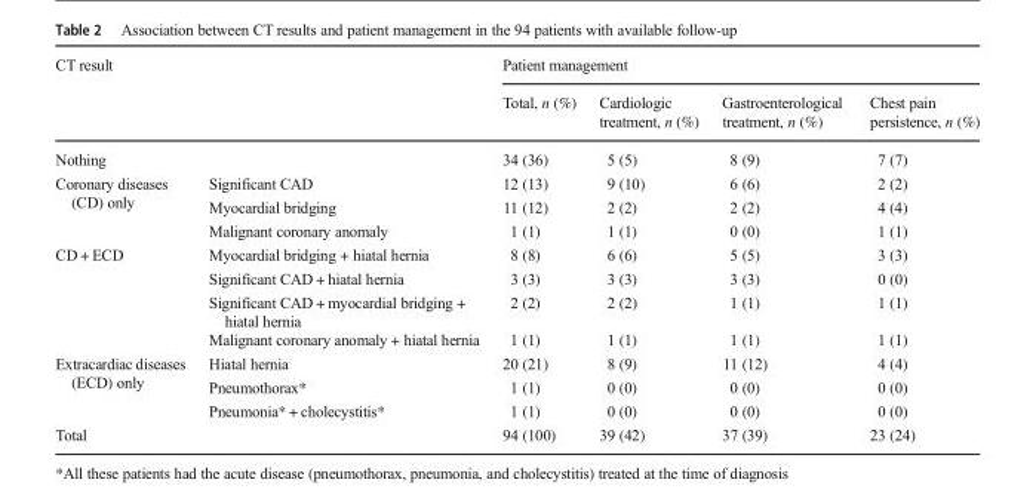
<table><thead><tr><td rowspan="2" colspan="2">CT result</td><td colspan="4">Patient management</td></tr><tr><td rowspan="2">Total, n (%) 34 (36)</td><td rowspan="2">Cardiologic treatment, n (%) 5 (5)</td><td rowspan="2">Gastroenterological treatment, n (%) 8 (9)</td><td rowspan="2">Chest pain persistence, n (%) 7 (7)</td></tr><tr><td>Nothing</td><td></td></tr></thead><tbody><tr><td rowspan="3">Coronary diseases (CD) only</td><td>Significant CAD</td><td>12 (13)</td><td>9 (10)</td><td>6 (6)</td><td>2 (2)</td></tr><tr><td>Myocardial bridging</td><td>11 (12)</td><td>2 (2)</td><td>2 (2)</td><td>4 (4)</td></tr><tr><td>Malignant coronary anomaly</td><td>1 (1)</td><td>1 (1)</td><td>0 (0)</td><td>1 (1)</td></tr><tr><td rowspan="4">CD + ECD</td><td>Myocardial bridging + hiatal hernia</td><td>8 (8)</td><td>6 (6)</td><td>5 (5)</td><td>3 (3)</td></tr><tr><td>Significant CAD + hiatal hernia</td><td>3 (3)</td><td>3 (3)</td><td>3 (3)</td><td>0 (0)</td></tr><tr><td>Significant CAD + myocardial bridging + hiatal hernia</td><td>2 (2)</td><td>2 (2)</td><td>1 (1)</td><td>1 (1)</td></tr><tr><td>Malignant coronary anomaly + hiatal hernia</td><td>1 (1)</td><td>1 (1)</td><td>1 (1)</td><td>1 (1)</td></tr><tr><td rowspan="3">Extracardiac diseases (ECD) only</td><td>Hiatal hernia</td><td>20 (21)</td><td>8 (9)</td><td>11 (12)</td><td>4 (4)</td></tr><tr><td>Pneumothorax*</td><td>1 (1)</td><td>0 (0)</td><td>0 (0)</td><td>0 (0)</td></tr><tr><td>Pneumonia* + cholecystitis*</td><td>1 (1)</td><td>0 (0)</td><td>0 (0)</td><td>0 (0)</td></tr><tr><td>Total</td><td></td><td>94 (100)</td><td>39 (42)</td><td>37 (39)</td><td>23 (24)</td></tr></tbody></table>